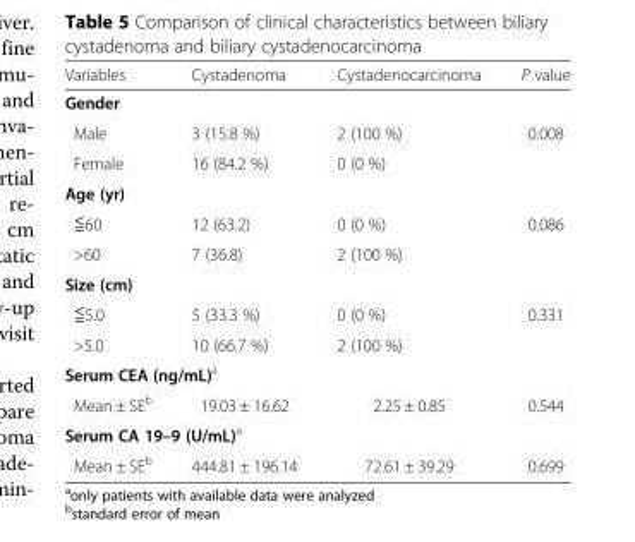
<table><thead><tr><td>Variables</td><td>Cystadenoma</td><td>Cystadenocarcinoma</td><td>P value</td></tr></thead><tbody><tr><td colspan="4">Gender</td></tr><tr><td>Male</td><td>3 (15.8 %)</td><td>2 (100 %)</td><td>0.008</td></tr><tr><td>Female</td><td>16 (84.2 %)</td><td>0 (0 %)</td><td></td></tr><tr><td colspan="4">Age (yr)</td></tr><tr><td>≦60</td><td>12 (63.2)</td><td>0 (0 %)</td><td>0.086</td></tr><tr><td>&gt;60</td><td>7 (36.8)</td><td>2 (100 %)</td><td></td></tr><tr><td colspan="4">Size (cm)</td></tr><tr><td>≦5.0</td><td>5 (33.3 %)</td><td>0 (0 %)</td><td>0.331</td></tr><tr><td>&gt;5.0</td><td>10 (66.7 %)</td><td>2 (100 %)</td><td></td></tr><tr><td colspan="4">Serum CEA (ng/mL)<sup>a</sup></td></tr><tr><td>Mean ± SE<sup>b</sup></td><td>19.03 ± 16.62</td><td>2.25 ± 0.85</td><td>0.544</td></tr><tr><td colspan="4">Serum CA 19–9 (U/mL)<sup>a</sup></td></tr><tr><td>Mean ± SE<sup>b</sup></td><td>444.81 ± 196.14</td><td>72.61 ± 39.29</td><td>0.699</td></tr></tbody></table>